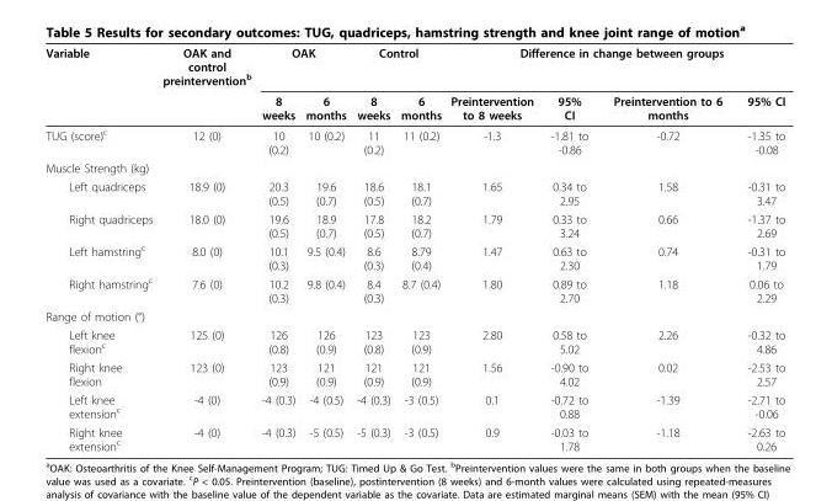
<table><thead><tr><td rowspan="2">Variable</td><td rowspan="2">OAK and control preintervention<sup>b</sup></td><td colspan="2">OAK</td><td colspan="2">Control</td><td colspan="4">Difference in change between groups</td></tr><tr><td>8 weeks</td><td>6 months</td><td>8 weeks</td><td>6 months</td><td>Preintervention to 8 weeks</td><td>95% CI</td><td>Preintervention to 6 months</td><td>95% CI</td></tr></thead><tbody><tr><td>TUG (score)<sup>c</sup></td><td>12 (0)</td><td>10 (0.2)</td><td>10 (0.2)</td><td>11 (0.2)</td><td>11 (0.2)</td><td>-1.3</td><td>-1.81 to -0.86</td><td>-0.72</td><td>-1.35 to -0.08</td></tr><tr><td colspan="10">Muscle Strength (kg)</td></tr><tr><td>Left quadriceps</td><td>18.9 (0)</td><td>20.3 (0.5)</td><td>19.6 (0.7)</td><td>18.6 (0.5)</td><td>18.1 (0.7)</td><td>1.65</td><td>0.34 to 2.95</td><td>1.58</td><td>-0.31 to 3.47</td></tr><tr><td>Right quadriceps</td><td>18.0 (0)</td><td>19.6 (0.5)</td><td>18.9 (0.7)</td><td>17.8 (0.5)</td><td>18.2 (0.7)</td><td>1.79</td><td>0.33 to 3.24</td><td>0.66</td><td>-1.37 to 2.69</td></tr><tr><td>Left hamstring<sup>c</sup></td><td>8.0 (0)</td><td>10.1 (0.3)</td><td>9.5 (0.4)</td><td>8.6 (0.3)</td><td>8.79 (0.4)</td><td>1.47</td><td>0.63 to 2.30</td><td>0.74</td><td>-0.31 to 1.79</td></tr><tr><td>Right hamstring<sup>c</sup></td><td>7.6 (0)</td><td>10.2 (0.3)</td><td>9.8 (0.4)</td><td>8.4 (0.3)</td><td>8.7 (0.4)</td><td>1.80</td><td>0.89 to 2.70</td><td>1.18</td><td>0.06 to 2.29</td></tr><tr><td colspan="10">Range of motion (°)</td></tr><tr><td>Left knee flexion<sup>c</sup></td><td>125 (0)</td><td>126 (0.8)</td><td>126 (0.9)</td><td>123 (0.8)</td><td>123 (0.9)</td><td>2.80</td><td>0.58 to 5.02</td><td>2.26</td><td>-0.32 to 4.86</td></tr><tr><td>Right knee flexion</td><td>123 (0)</td><td>123 (0.9)</td><td>121 (0.9)</td><td>121 (0.9)</td><td>121 (0.9)</td><td>1.56</td><td>-0.90 to 4.02</td><td>0.02</td><td>-2.53 to 2.57</td></tr><tr><td>Left knee extension<sup>c</sup></td><td>-4 (0)</td><td>-4 (0.3)</td><td>-4 (0.5)</td><td>-4 (0.3)</td><td>-3 (0.5)</td><td>0.1</td><td>-0.72 to 0.88</td><td>-1.39</td><td>-2.71 to -0.06</td></tr><tr><td>Right knee extension<sup>c</sup></td><td>-4 (0)</td><td>-4 (0.3)</td><td>-5 (0.5)</td><td>-5 (0.3)</td><td>-3 (0.5)</td><td>0.9</td><td>-0.03 to 1.78</td><td>-1.18</td><td>-2.63 to 0.26</td></tr></tbody></table>